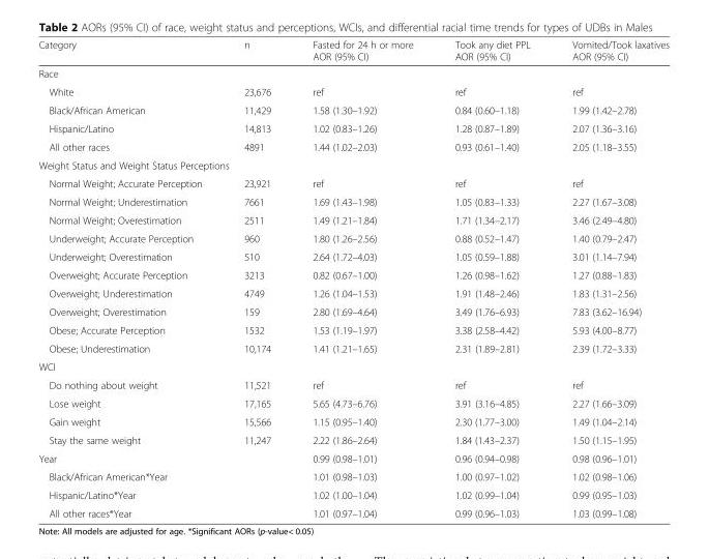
<table><thead><tr><td>Category</td><td>n</td><td>Fasted for 24 h or more AOR (95% CI)</td><td>Took any diet PPL AOR (95% CI)</td><td>Vomited/Took laxatives AOR (95% CI)</td></tr></thead><tbody><tr><td colspan="5">Race</td></tr><tr><td>White</td><td>23,676</td><td>ref</td><td>ref</td><td>ref</td></tr><tr><td>Black/African American</td><td>11,429</td><td>1.58 (1.30–1.92)</td><td>0.84 (0.60–1.18)</td><td>1.99 (1.42–2.78)</td></tr><tr><td>Hispanic/Latino</td><td>14,813</td><td>1.02 (0.83–1.26)</td><td>1.28 (0.87–1.89)</td><td>2.07 (1.36–3.16)</td></tr><tr><td>All other races</td><td>4891</td><td>1.44 (1.02–2.03)</td><td>0.93 (0.61–1.40)</td><td>2.05 (1.18–3.55)</td></tr><tr><td colspan="5">Weight Status and Weight Status Perceptions</td></tr><tr><td>Normal Weight; Accurate Perception</td><td>23,921</td><td>ref</td><td>ref</td><td>ref</td></tr><tr><td>Normal Weight; Underestimation</td><td>7661</td><td>1.69 (1.43–1.98)</td><td>1.05 (0.83–1.33)</td><td>2.27 (1.67–3.08)</td></tr><tr><td>Normal Weight; Overestimation</td><td>2511</td><td>1.49 (1.21–1.84)</td><td>1.71 (1.34–2.17)</td><td>3.46 (2.49–4.80)</td></tr><tr><td>Underweight; Accurate Perception</td><td>960</td><td>1.80 (1.26–2.56)</td><td>0.88 (0.52–1.47)</td><td>1.40 (0.79–2.47)</td></tr><tr><td>Underweight; Overestimation</td><td>510</td><td>2.64 (1.72–4.03)</td><td>1.05 (0.59–1.88)</td><td>3.01 (1.14–7.94)</td></tr><tr><td>Overweight; Accurate Perception</td><td>3213</td><td>0.82 (0.67–1.00)</td><td>1.26 (0.98–1.62)</td><td>1.27 (0.88–1.83)</td></tr><tr><td>Overweight; Underestimation</td><td>4749</td><td>1.26 (1.04–1.53)</td><td>1.91 (1.48–2.46)</td><td>1.83 (1.31–2.56)</td></tr><tr><td>Overweight; Overestimation</td><td>159</td><td>2.80 (1.69–4.64)</td><td>3.49 (1.76–6.93)</td><td>7.83 (3.62–16.94)</td></tr><tr><td>Obese; Accurate Perception</td><td>1532</td><td>1.53 (1.19–1.97)</td><td>3.38 (2.58–4.42)</td><td>5.93 (4.00–8.77)</td></tr><tr><td>Obese; Underestimation</td><td>10,174</td><td>1.41 (1.21–1.65)</td><td>2.31 (1.89–2.81)</td><td>2.39 (1.72–3.33)</td></tr><tr><td colspan="5">WCI</td></tr><tr><td>Do nothing about weight</td><td>11,521</td><td>ref</td><td>ref</td><td>ref</td></tr><tr><td>Lose weight</td><td>17,165</td><td>5.65 (4.73–6.76)</td><td>3.91 (3.16–4.85)</td><td>2.27 (1.66–3.09)</td></tr><tr><td>Gain weight</td><td>15,566</td><td>1.15 (0.95–1.40)</td><td>2.30 (1.77–3.00)</td><td>1.49 (1.04–2.14)</td></tr><tr><td>Stay the same weight</td><td>11,247</td><td>2.22 (1.86–2.64)</td><td>1.84 (1.43–2.37)</td><td>1.50 (1.15–1.95)</td></tr><tr><td>Year</td><td></td><td>0.99 (0.98–1.01)</td><td>0.96 (0.94–0.98)</td><td>0.98 (0.96–1.01)</td></tr><tr><td>Black/African American*Year</td><td></td><td>1.01 (0.98–1.03)</td><td>1.00 (0.97–1.02)</td><td>1.02 (0.98–1.06)</td></tr><tr><td>Hispanic/Latino*Year</td><td></td><td>1.02 (1.00–1.04)</td><td>1.02 (0.99–1.04)</td><td>0.99 (0.95–1.03)</td></tr><tr><td>All other races*Year</td><td></td><td>1.01 (0.97–1.04)</td><td>0.99 (0.96–1.03)</td><td>1.03 (0.99–1.08)</td></tr></tbody></table>